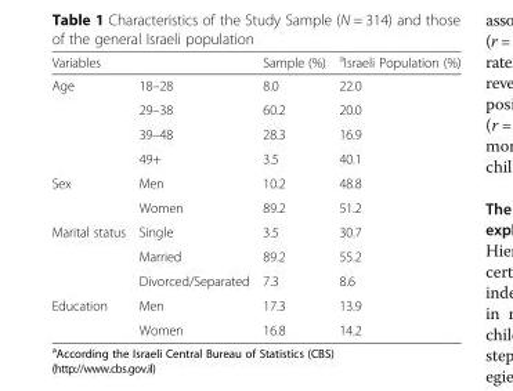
<table><thead><tr><td>Variables</td><td></td><td>Sample (%)</td><td><sup>a</sup>Israeli Population (%)</td></tr></thead><tbody><tr><td rowspan="4">Age</td><td>18–28</td><td>8.0</td><td>22.0</td></tr><tr><td>29–38</td><td>60.2</td><td>20.0</td></tr><tr><td>39–48</td><td>28.3</td><td>16.9</td></tr><tr><td>49+</td><td>3.5</td><td>40.1</td></tr><tr><td rowspan="2">Sex</td><td>Men</td><td>10.2</td><td>48.8</td></tr><tr><td>Women</td><td>89.2</td><td>51.2</td></tr><tr><td rowspan="3">Marital status</td><td>Single</td><td>3.5</td><td>30.7</td></tr><tr><td>Married</td><td>89.2</td><td>55.2</td></tr><tr><td>Divorced/Separated</td><td>7.3</td><td>8.6</td></tr><tr><td rowspan="2">Education</td><td>Men</td><td>17.3</td><td>13.9</td></tr><tr><td>Women</td><td>16.8</td><td>14.2</td></tr></tbody></table>